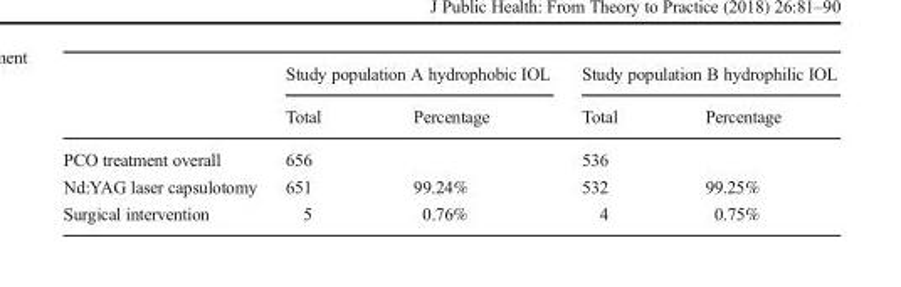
<table><thead><tr><td rowspan="2"></td><td colspan="2">Study population A hydrophobic IOL</td><td colspan="2">Study population B hydrophilic IOL</td></tr><tr><td>Total</td><td>Percentage</td><td>Total</td><td>Percentage</td></tr></thead><tbody><tr><td>PCO treatment overall</td><td>656</td><td></td><td>536</td><td></td></tr><tr><td>Nd:YAG laser capsulotomy</td><td>651</td><td>99.24%</td><td>532</td><td>99.25%</td></tr><tr><td>Surgical intervention</td><td>5</td><td>0.76%</td><td>4</td><td>0.75%</td></tr></tbody></table>